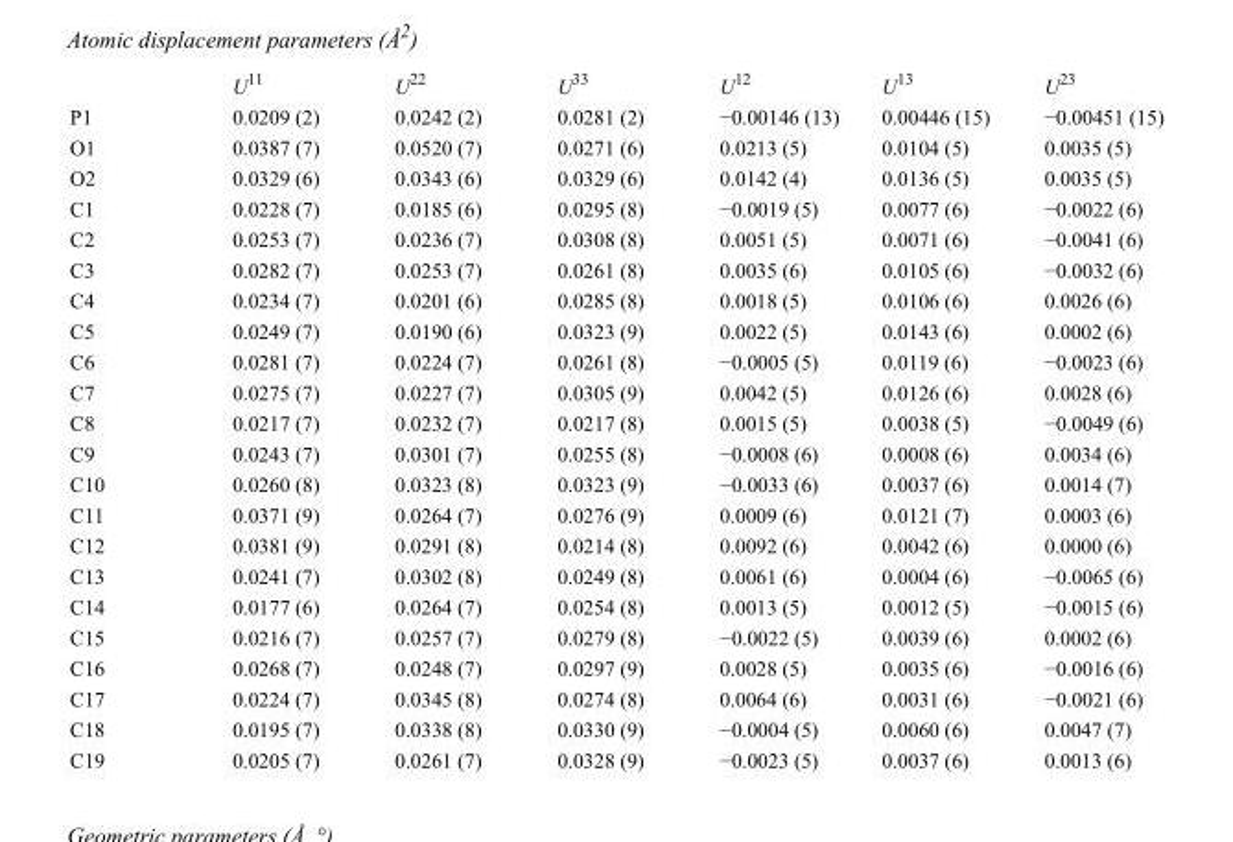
<table><thead><tr><td></td><td>U<sup>11</sup></td><td>U<sup>22</sup></td><td>U<sup>33</sup></td><td>U<sup>12</sup></td><td>U<sup>13</sup></td><td>U<sup>23</sup></td></tr></thead><tbody><tr><td>P1</td><td>0.0209 (2)</td><td>0.0242 (2)</td><td>0.0281 (2)</td><td>−0.00146 (13)</td><td>0.00446 (15)</td><td>−0.00451 (15)</td></tr><tr><td>O1</td><td>0.0387 (7)</td><td>0.0520 (7)</td><td>0.0271 (6)</td><td>0.0213 (5)</td><td>0.0104 (5)</td><td>0.0035 (5)</td></tr><tr><td>O2</td><td>0.0329 (6)</td><td>0.0343 (6)</td><td>0.0329 (6)</td><td>0.0142 (4)</td><td>0.0136 (5)</td><td>0.0035 (5)</td></tr><tr><td>C1</td><td>0.0228 (7)</td><td>0.0185 (6)</td><td>0.0295 (8)</td><td>−0.0019 (5)</td><td>0.0077 (6)</td><td>−0.0022 (6)</td></tr><tr><td>C2</td><td>0.0253 (7)</td><td>0.0236 (7)</td><td>0.0308 (8)</td><td>0.0051 (5)</td><td>0.0071 (6)</td><td>−0.0041 (6)</td></tr><tr><td>C3</td><td>0.0282 (7)</td><td>0.0253 (7)</td><td>0.0261 (8)</td><td>0.0035 (6)</td><td>0.0105 (6)</td><td>−0.0032 (6)</td></tr><tr><td>C4</td><td>0.0234 (7)</td><td>0.0201 (6)</td><td>0.0285 (8)</td><td>0.0018 (5)</td><td>0.0106 (6)</td><td>0.0026 (6)</td></tr><tr><td>C5</td><td>0.0249 (7)</td><td>0.0190 (6)</td><td>0.0323 (9)</td><td>0.0022 (5)</td><td>0.0143 (6)</td><td>0.0002 (6)</td></tr><tr><td>C6</td><td>0.0281 (7)</td><td>0.0224 (7)</td><td>0.0261 (8)</td><td>−0.0005 (5)</td><td>0.0119 (6)</td><td>−0.0023 (6)</td></tr><tr><td>C7</td><td>0.0275 (7)</td><td>0.0227 (7)</td><td>0.0305 (9)</td><td>0.0042 (5)</td><td>0.0126 (6)</td><td>0.0028 (6)</td></tr><tr><td>C8</td><td>0.0217 (7)</td><td>0.0232 (7)</td><td>0.0217 (8)</td><td>0.0015 (5)</td><td>0.0038 (5)</td><td>−0.0049 (6)</td></tr><tr><td>C9</td><td>0.0243 (7)</td><td>0.0301 (7)</td><td>0.0255 (8)</td><td>−0.0008 (6)</td><td>0.0008 (6)</td><td>0.0034 (6)</td></tr><tr><td>C10</td><td>0.0260 (8)</td><td>0.0323 (8)</td><td>0.0323 (9)</td><td>−0.0033 (6)</td><td>0.0037 (6)</td><td>0.0014 (7)</td></tr><tr><td>C11</td><td>0.0371 (9)</td><td>0.0264 (7)</td><td>0.0276 (9)</td><td>0.0009 (6)</td><td>0.0121 (7)</td><td>0.0003 (6)</td></tr><tr><td>C12</td><td>0.0381 (9)</td><td>0.0291 (8)</td><td>0.0214 (8)</td><td>0.0092 (6)</td><td>0.0042 (6)</td><td>0.0000 (6)</td></tr><tr><td>C13</td><td>0.0241 (7)</td><td>0.0302 (8)</td><td>0.0249 (8)</td><td>0.0061 (6)</td><td>0.0004 (6)</td><td>−0.0065 (6)</td></tr><tr><td>C14</td><td>0.0177 (6)</td><td>0.0264 (7)</td><td>0.0254 (8)</td><td>0.0013 (5)</td><td>0.0012 (5)</td><td>−0.0015 (6)</td></tr><tr><td>C15</td><td>0.0216 (7)</td><td>0.0257 (7)</td><td>0.0279 (8)</td><td>−0.0022 (5)</td><td>0.0039 (6)</td><td>0.0002 (6)</td></tr><tr><td>C16</td><td>0.0268 (7)</td><td>0.0248 (7)</td><td>0.0297 (9)</td><td>0.0028 (5)</td><td>0.0035 (6)</td><td>−0.0016 (6)</td></tr><tr><td>C17</td><td>0.0224 (7)</td><td>0.0345 (8)</td><td>0.0274 (8)</td><td>0.0064 (6)</td><td>0.0031 (6)</td><td>−0.0021 (6)</td></tr><tr><td>C18</td><td>0.0195 (7)</td><td>0.0338 (8)</td><td>0.0330 (9)</td><td>−0.0004 (5)</td><td>0.0060 (6)</td><td>0.0047 (7)</td></tr><tr><td>C19</td><td>0.0205 (7)</td><td>0.0261 (7)</td><td>0.0328 (9)</td><td>−0.0023 (5)</td><td>0.0037 (6)</td><td>0.0013 (6)</td></tr></tbody></table>